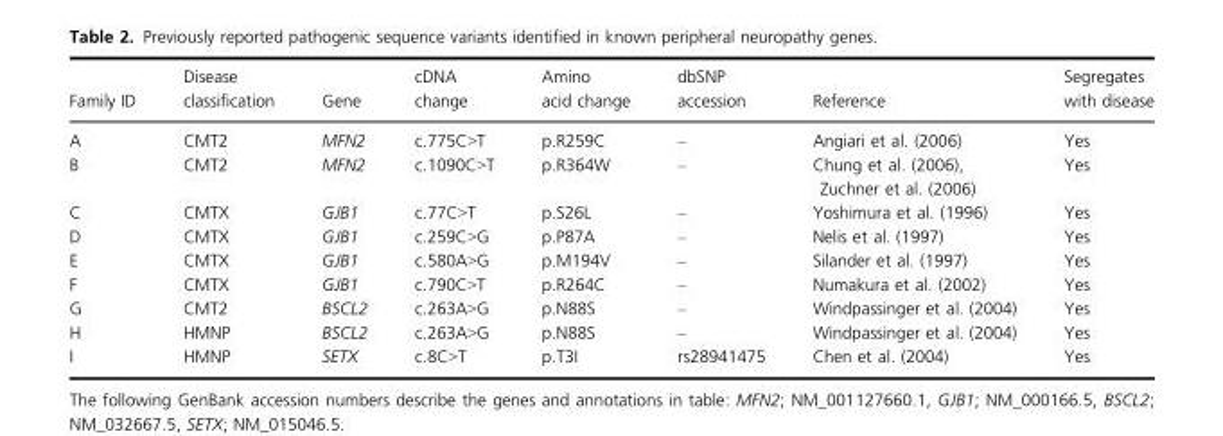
<table><thead><tr><td>Family ID</td><td>Disease classification</td><td>Gene</td><td>cDNA change</td><td>Amino acid change</td><td>dbSNP accession</td><td>Reference</td><td>Segregates with disease</td></tr></thead><tbody><tr><td>A</td><td>CMT2</td><td>MFN2</td><td>c.775C&gt;T</td><td>p.R259C</td><td>–</td><td>Angiari et al. (2006)</td><td>Yes</td></tr><tr><td>B</td><td>CMT2</td><td>MFN2</td><td>c.1090C&gt;T</td><td>p.R364W</td><td>–</td><td>Chung et al. (2006), Zuchner et al. (2006)</td><td>Yes</td></tr><tr><td>C</td><td>CMTX</td><td>GJB1</td><td>c.77C&gt;T</td><td>p.S26L</td><td>–</td><td>Yoshimura et al. (1996)</td><td>Yes</td></tr><tr><td>D</td><td>CMTX</td><td>GJB1</td><td>c.259C&gt;G</td><td>p.P87A</td><td>–</td><td>Nelis et al. (1997)</td><td>Yes</td></tr><tr><td>E</td><td>CMTX</td><td>GJB1</td><td>c.580A&gt;G</td><td>p.M194V</td><td>–</td><td>Silander et al. (1997)</td><td>Yes</td></tr><tr><td>F</td><td>CMTX</td><td>GJB1</td><td>c.790C&gt;T</td><td>p.R264C</td><td>–</td><td>Numakura et al. (2002)</td><td>Yes</td></tr><tr><td>G</td><td>CMT2</td><td>BSCL2</td><td>c.263A&gt;G</td><td>p.N88S</td><td>–</td><td>Windpassinger et al. (2004)</td><td>Yes</td></tr><tr><td>H</td><td>HMNP</td><td>BSCL2</td><td>c.263A&gt;G</td><td>p.N88S</td><td>–</td><td>Windpassinger et al. (2004)</td><td>Yes</td></tr><tr><td>I</td><td>HMNP</td><td>SETX</td><td>c.8C&gt;T</td><td>p.T3I</td><td>rs28941475</td><td>Chen et al. (2004)</td><td>Yes</td></tr></tbody></table>